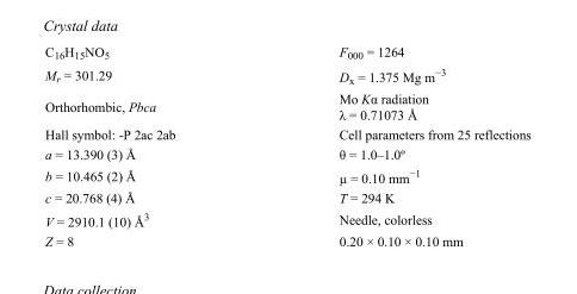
<table><tbody><tr><td>C<sub>16</sub>H<sub>15</sub>NO<sub>5</sub></td><td>F000 = 1264</td></tr><tr><td>M<sub>r</sub> = 301.29</td><td>D<sub>x</sub> = 1.375 Mg m<sup>−3</sup></td></tr><tr><td>Orthorhombic, Pbca</td><td>Mo Kα radiation λ = 0.71073 Å</td></tr><tr><td>Hall symbol: -P 2ac 2ab</td><td>Cell parameters from 25 reflections</td></tr><tr><td>a = 13.390 (3) Å</td><td>θ = 1.0–1.0º</td></tr><tr><td>b = 10.465 (2) Å</td><td>µ = 0.10 mm<sup>−1</sup></td></tr><tr><td>c = 20.768 (4) Å</td><td>T = 294 K</td></tr><tr><td>V = 2910.1 (10) Å<sup>3</sup></td><td>Needle, colorless</td></tr><tr><td>Z = 8</td><td>0.20 × 0.10 × 0.10 mm</td></tr></tbody></table>